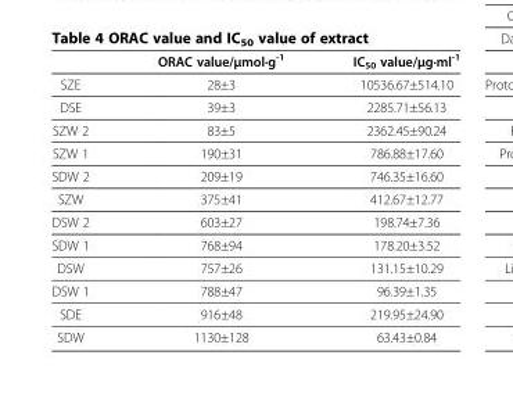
<table><thead><tr><td></td><td>ORAC value/μmol·g<sup>-1</sup></td><td>IC<sub>50</sub> value/μg·ml<sup>-1</sup></td></tr></thead><tbody><tr><td>SZE</td><td>28±3</td><td>10536.67±514.10</td></tr><tr><td>DSE</td><td>39±3</td><td>2285.71±56.13</td></tr><tr><td>SZW 2</td><td>83±5</td><td>2362.45±90.24</td></tr><tr><td>SZW 1</td><td>190±31</td><td>786.88±17.60</td></tr><tr><td>SDW 2</td><td>209±19</td><td>746.35±16.60</td></tr><tr><td>SZW</td><td>375±41</td><td>412.67±12.77</td></tr><tr><td>DSW 2</td><td>603±27</td><td>198.74±7.36</td></tr><tr><td>SDW 1</td><td>768±94</td><td>178.20±3.52</td></tr><tr><td>DSW</td><td>757±26</td><td>131.15±10.29</td></tr><tr><td>DSW 1</td><td>788±47</td><td>96.39±1.35</td></tr><tr><td>SDE</td><td>916±48</td><td>219.95±24.90</td></tr><tr><td>SDW</td><td>1130±128</td><td>63.43±0.84</td></tr></tbody></table>